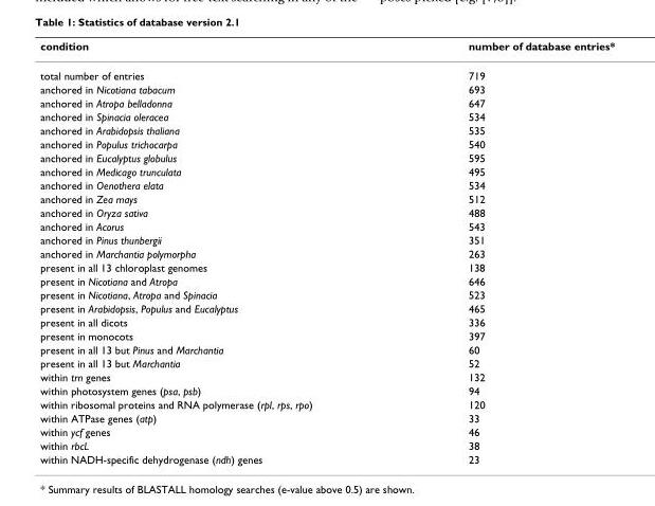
<table><thead><tr><td>condition</td><td>number of database entries*</td></tr></thead><tbody><tr><td>total number of entries</td><td>719</td></tr><tr><td>anchored in Nicotiana tabacum</td><td>693</td></tr><tr><td>anchored in Atropa belladonna</td><td>647</td></tr><tr><td>anchored in Spinacia oleracea</td><td>534</td></tr><tr><td>anchored in Arabidopsis thaliana</td><td>535</td></tr><tr><td>anchored in Populus trichocarpa</td><td>540</td></tr><tr><td>anchored in Eucalyptus globulus</td><td>595</td></tr><tr><td>anchored in Medicago trunculata</td><td>495</td></tr><tr><td>anchored in Oenothera elata</td><td>534</td></tr><tr><td>anchored in Zea mays</td><td>512</td></tr><tr><td>anchored in Oryza sativa</td><td>488</td></tr><tr><td>anchored in Acorus</td><td>543</td></tr><tr><td>anchored in Pinus thunbergii</td><td>351</td></tr><tr><td>anchored in Marchantia polymorpha</td><td>263</td></tr><tr><td>present in all 13 chloroplast genomes</td><td>138</td></tr><tr><td>present in Nicotiana and Atropa</td><td>646</td></tr><tr><td>present in Nicotiana, Atropa and Spinacia</td><td>523</td></tr><tr><td>present in Arabidopsis, Populus and Eucalyptus</td><td>465</td></tr><tr><td>present in all dicots</td><td>336</td></tr><tr><td>present in monocots</td><td>397</td></tr><tr><td>present in all 13 but Pinus and Marchantia</td><td>60</td></tr><tr><td>present in all 13 but Marchantia</td><td>52</td></tr><tr><td>within trn genes</td><td>132</td></tr><tr><td>within photosystem genes (psa, psb)</td><td>94</td></tr><tr><td>within ribosomal proteins and RNA polymerase (rpl, rps, rpo)</td><td>120</td></tr><tr><td>within ATPase genes (atp)</td><td>33</td></tr><tr><td>within ycf genes</td><td>46</td></tr><tr><td>within rbcL</td><td>38</td></tr><tr><td>within NADH-specific dehydrogenase (ndh) genes</td><td>23</td></tr></tbody></table>